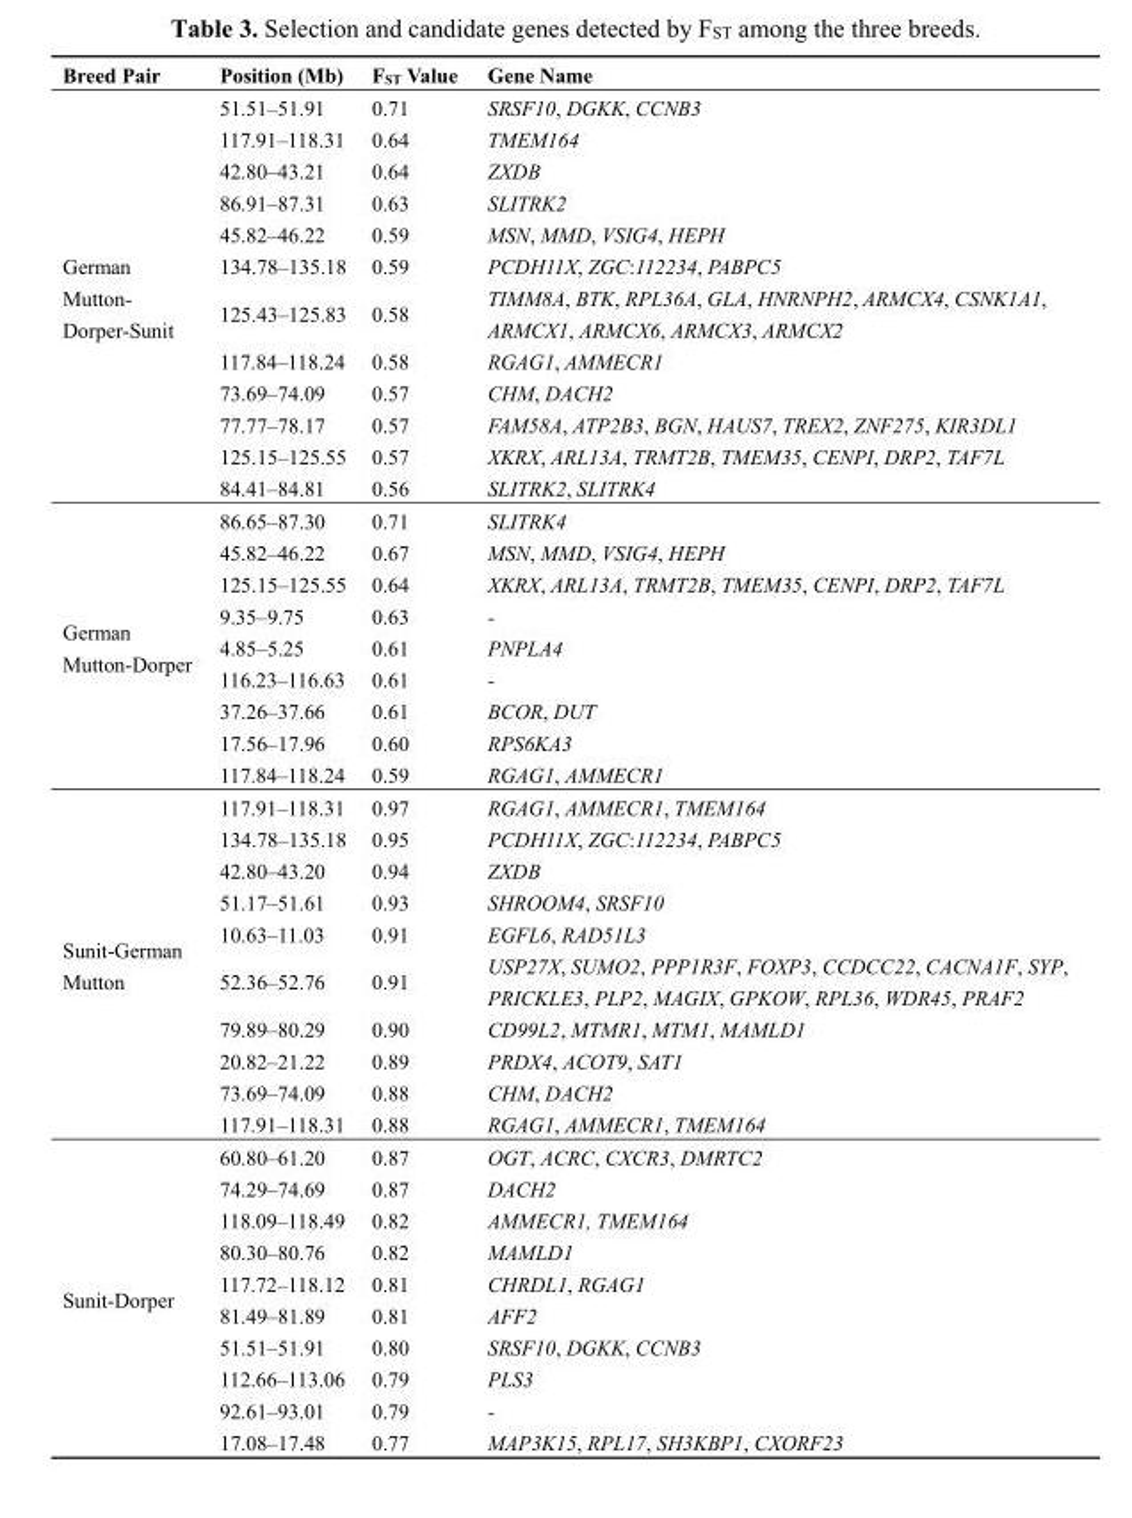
<table><thead><tr><td>Breed Pair</td><td>Position (Mb)</td><td>F<sub>ST</sub> Value</td><td>Gene Name</td></tr></thead><tbody><tr><td rowspan="12">German Mutton- Dorper-Sunit</td><td>51.51–51.91</td><td>0.71</td><td>SRSF10, DGKK, CCNB3</td></tr><tr><td>117.91–118.31</td><td>0.64</td><td>TMEM164</td></tr><tr><td>42.80–43.21</td><td>0.64</td><td>ZXDB</td></tr><tr><td>86.91–87.31</td><td>0.63</td><td>SLITRK2</td></tr><tr><td>45.82–46.22</td><td>0.59</td><td>MSN, MMD, VSIG4, HEPH</td></tr><tr><td>134.78–135.18</td><td>0.59</td><td>PCDH11X, ZGC:112234, PABPC5</td></tr><tr><td>125.43–125.83</td><td>0.58</td><td>TIMM8A, BTK, RPL36A, GLA, HNRNPH2, ARMCX4, CSNK1A1, ARMCX1, ARMCX6, ARMCX3, ARMCX2</td></tr><tr><td>117.84–118.24</td><td>0.58</td><td>RGAG1, AMMECR1</td></tr><tr><td>73.69–74.09</td><td>0.57</td><td>CHM, DACH2</td></tr><tr><td>77.77–78.17</td><td>0.57</td><td>FAM58A, ATP2B3, BGN, HAUS7, TREX2, ZNF275, KIR3DL1</td></tr><tr><td>125.15–125.55</td><td>0.57</td><td>XKRX, ARL13A, TRMT2B, TMEM35, CENPI, DRP2, TAF7L</td></tr><tr><td>84.41–84.81</td><td>0.56</td><td>SLITRK2, SLITRK4</td></tr><tr><td rowspan="9">German Mutton-Dorper</td><td>86.65–87.30</td><td>0.71</td><td>SLITRK4</td></tr><tr><td>45.82–46.22</td><td>0.67</td><td>MSN, MMD, VSIG4, HEPH</td></tr><tr><td>125.15–125.55</td><td>0.64</td><td>XKRX, ARL13A, TRMT2B, TMEM35, CENPI, DRP2, TAF7L</td></tr><tr><td>9.35–9.75</td><td>0.63</td><td>-</td></tr><tr><td>4.85–5.25</td><td>0.61</td><td>PNPLA4</td></tr><tr><td>116.23–116.63</td><td>0.61</td><td>-</td></tr><tr><td>37.26–37.66</td><td>0.61</td><td>BCOR, DUT</td></tr><tr><td>17.56–17.96</td><td>0.60</td><td>RPS6KA3</td></tr><tr><td>117.84–118.24</td><td>0.59</td><td>RGAG1, AMMECR1</td></tr><tr><td rowspan="10">Sunit-German Mutton</td><td>117.91–118.31</td><td>0.97</td><td>RGAG1, AMMECR1, TMEM164</td></tr><tr><td>134.78–135.18</td><td>0.95</td><td>PCDH11X, ZGC:112234, PABPC5</td></tr><tr><td>42.80–43.20</td><td>0.94</td><td>ZXDB</td></tr><tr><td>51.17–51.61</td><td>0.93</td><td>SHROOM4, SRSF10</td></tr><tr><td>10.63–11.03</td><td>0.91</td><td>EGFL6, RAD51L3</td></tr><tr><td>52.36–52.76</td><td>0.91</td><td>USP27X, SUMO2, PPP1R3F, FOXP3, CCDCC22, CACNA1F, SYP, PRICKLE3, PLP2, MAGIX, GPKOW, RPL36, WDR45, PRAF2</td></tr><tr><td>79.89–80.29</td><td>0.90</td><td>CD99L2, MTMR1, MTM1, MAMLD1</td></tr><tr><td>20.82–21.22</td><td>0.89</td><td>PRDX4, ACOT9, SAT1</td></tr><tr><td>73.69–74.09</td><td>0.88</td><td>CHM, DACH2</td></tr><tr><td>117.91–118.31</td><td>0.88</td><td>RGAG1, AMMECR1, TMEM164</td></tr><tr><td rowspan="10">Sunit-Dorper</td><td>60.80–61.20</td><td>0.87</td><td>OGT, ACRC, CXCR3, DMRTC2</td></tr><tr><td>74.29–74.69</td><td>0.87</td><td>DACH2</td></tr><tr><td>118.09–118.49</td><td>0.82</td><td>AMMECR1, TMEM164</td></tr><tr><td>80.30–80.76</td><td>0.82</td><td>MAMLD1</td></tr><tr><td>117.72–118.12</td><td>0.81</td><td>CHRDL1, RGAG1</td></tr><tr><td>81.49–81.89</td><td>0.81</td><td>AFF2</td></tr><tr><td>51.51–51.91</td><td>0.80</td><td>SRSF10, DGKK, CCNB3</td></tr><tr><td>112.66–113.06</td><td>0.79</td><td>PLS3</td></tr><tr><td>92.61–93.01</td><td>0.79</td><td>-</td></tr><tr><td>17.08–17.48</td><td>0.77</td><td>MAP3K15, RPL17, SH3KBP1, CXORF23</td></tr></tbody></table>